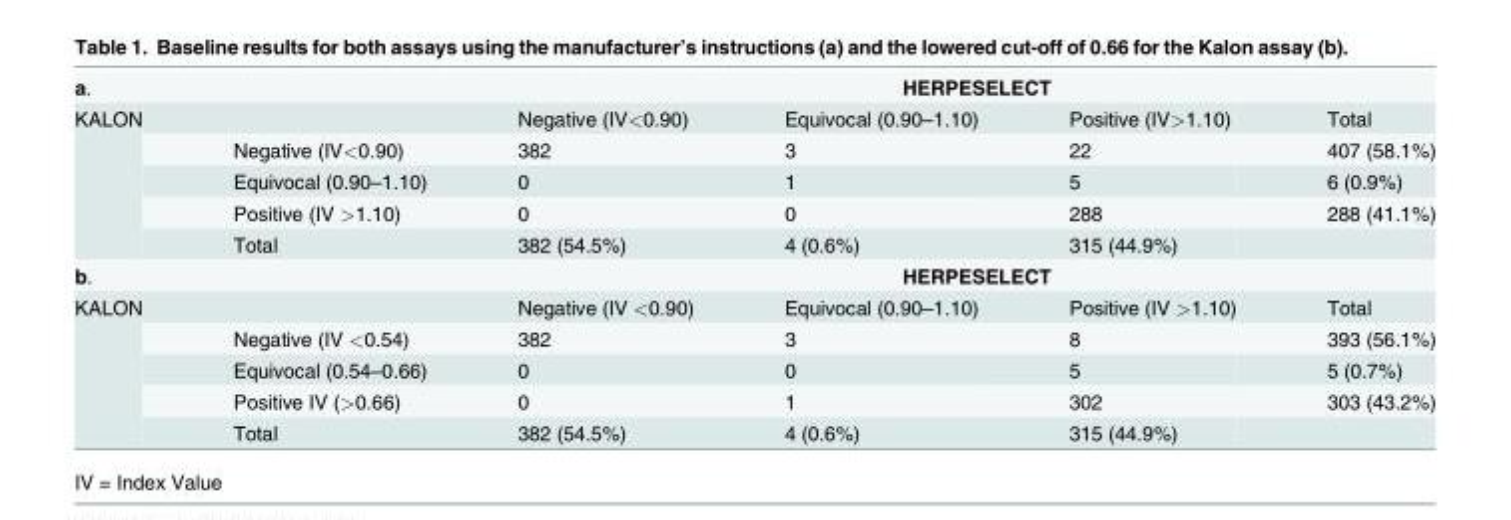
<table><tbody><tr><td colspan="2">a.</td><td colspan="4">HERPESELECT</td></tr><tr><td rowspan="5">KALON</td><td></td><td>Negative (IV&lt;0.90)</td><td>Equivocal (0.90–1.10)</td><td>Positive (IV&gt;1.10)</td><td>Total</td></tr><tr><td>Negative (IV&lt;0.90)</td><td>382</td><td>3</td><td>22</td><td>407 (58.1%)</td></tr><tr><td>Equivocal (0.90–1.10)</td><td>0</td><td>1</td><td>5</td><td>6 (0.9%)</td></tr><tr><td>Positive (IV &gt;1.10)</td><td>0</td><td>0</td><td>288</td><td>288 (41.1%)</td></tr><tr><td>Total</td><td>382 (54.5%)</td><td>4 (0.6%)</td><td>315 (44.9%)</td><td></td></tr><tr><td colspan="2">b.</td><td colspan="4">HERPESELECT</td></tr><tr><td rowspan="5">KALON</td><td></td><td>Negative (IV &lt;0.90)</td><td>Equivocal (0.90–1.10)</td><td>Positive (IV &gt;1.10)</td><td>Total</td></tr><tr><td>Negative (IV &lt;0.54)</td><td>382</td><td>3</td><td>8</td><td>393 (56.1%)</td></tr><tr><td>Equivocal (0.54–0.66)</td><td>0</td><td>0</td><td>5</td><td>5 (0.7%)</td></tr><tr><td>Positive IV (&gt;0.66)</td><td>0</td><td>1</td><td>302</td><td>303 (43.2%)</td></tr><tr><td>Total</td><td>382 (54.5%)</td><td>4 (0.6%)</td><td>315 (44.9%)</td><td></td></tr></tbody></table>